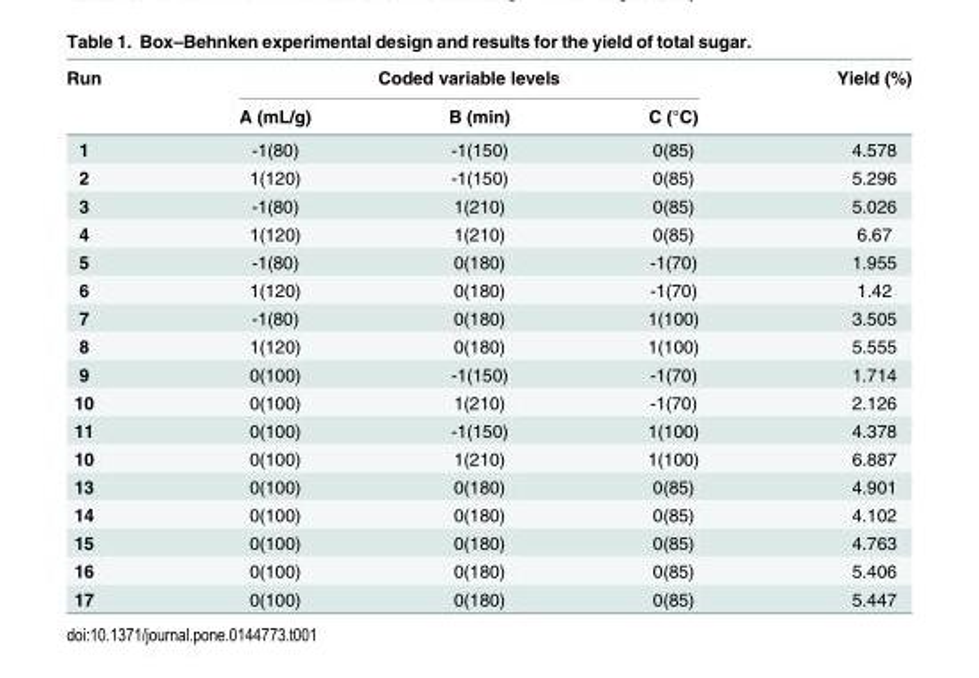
<table><thead><tr><td rowspan="2">Run</td><td colspan="3">Coded variable levels</td><td rowspan="2">Yield (%)</td></tr><tr><td>A (mL/g)</td><td>B (min)</td><td>C (°C)</td></tr></thead><tbody><tr><td>1</td><td>-1(80)</td><td>-1(150)</td><td>0(85)</td><td>4.578</td></tr><tr><td>2</td><td>1(120)</td><td>-1(150)</td><td>0(85)</td><td>5.296</td></tr><tr><td>3</td><td>-1(80)</td><td>1(210)</td><td>0(85)</td><td>5.026</td></tr><tr><td>4</td><td>1(120)</td><td>1(210)</td><td>0(85)</td><td>6.67</td></tr><tr><td>5</td><td>-1(80)</td><td>0(180)</td><td>-1(70)</td><td>1.955</td></tr><tr><td>6</td><td>1(120)</td><td>0(180)</td><td>-1(70)</td><td>1.42</td></tr><tr><td>7</td><td>-1(80)</td><td>0(180)</td><td>1(100)</td><td>3.505</td></tr><tr><td>8</td><td>1(120)</td><td>0(180)</td><td>1(100)</td><td>5.555</td></tr><tr><td>9</td><td>0(100)</td><td>-1(150)</td><td>-1(70)</td><td>1.714</td></tr><tr><td>10</td><td>0(100)</td><td>1(210)</td><td>-1(70)</td><td>2.126</td></tr><tr><td>11</td><td>0(100)</td><td>-1(150)</td><td>1(100)</td><td>4.378</td></tr><tr><td>10</td><td>0(100)</td><td>1(210)</td><td>1(100)</td><td>6.887</td></tr><tr><td>13</td><td>0(100)</td><td>0(180)</td><td>0(85)</td><td>4.901</td></tr><tr><td>14</td><td>0(100)</td><td>0(180)</td><td>0(85)</td><td>4.102</td></tr><tr><td>15</td><td>0(100)</td><td>0(180)</td><td>0(85)</td><td>4.763</td></tr><tr><td>16</td><td>0(100)</td><td>0(180)</td><td>0(85)</td><td>5.406</td></tr><tr><td>17</td><td>0(100)</td><td>0(180)</td><td>0(85)</td><td>5.447</td></tr></tbody></table>